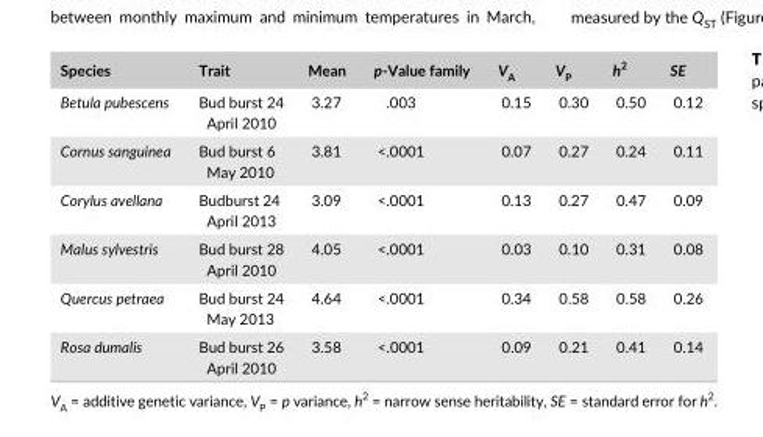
<table><thead><tr><td>Species</td><td>Trait</td><td>Mean</td><td>p- Value family</td><td>V<sub>A</sub></td><td>V<sub>P</sub></td><td>h<sup>2</sup></td><td>SE</td></tr></thead><tbody><tr><td>Betula pubescens</td><td>Bud burst 24 April 2010</td><td>3.27</td><td>.003</td><td>0.15</td><td>0.30</td><td>0.50</td><td>0.12</td></tr><tr><td>Cornus sanguinea</td><td>Bud burst 6 May 2010</td><td>3.81</td><td>&lt;.0001</td><td>0.07</td><td>0.27</td><td>0.24</td><td>0.11</td></tr><tr><td>Corylus avellana</td><td>Budburst 24 April 2013</td><td>3.09</td><td>&lt;.0001</td><td>0.13</td><td>0.27</td><td>0.47</td><td>0.09</td></tr><tr><td>Malus sylvestris</td><td>Bud burst 28 April 2010</td><td>4.05</td><td>&lt;.0001</td><td>0.03</td><td>0.10</td><td>0.31</td><td>0.08</td></tr><tr><td>Quercus petraea</td><td>Bud burst 24 May 2013</td><td>4.64</td><td>&lt;.0001</td><td>0.34</td><td>0.58</td><td>0.58</td><td>0.26</td></tr><tr><td>Rosa dumalis</td><td>Bud burst 26 April 2010</td><td>3.58</td><td>&lt;.0001</td><td>0.09</td><td>0.21</td><td>0.41</td><td>0.14</td></tr></tbody></table>